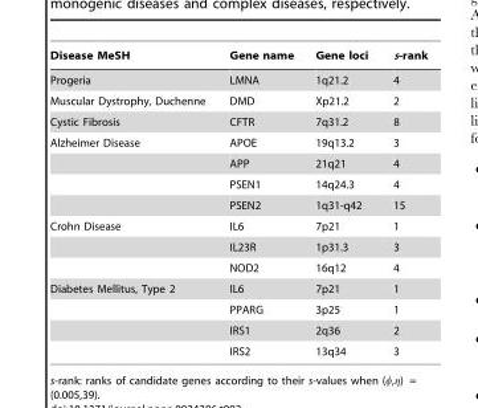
<table><thead><tr><td>Disease MeSH</td><td>Gene name</td><td>Gene loci</td><td>s-rank</td></tr></thead><tbody><tr><td>Progeria</td><td>LMNA</td><td>1q21.2</td><td>4</td></tr><tr><td>Muscular Dystrophy, Duchenne</td><td>DMD</td><td>Xp21.2</td><td>2</td></tr><tr><td>Cystic Fibrosis</td><td>CFTR</td><td>7q31.2</td><td>8</td></tr><tr><td rowspan="4">Alzheimer Disease</td><td>APOE</td><td>19q13.2</td><td>3</td></tr><tr><td>APP</td><td>21q21</td><td>4</td></tr><tr><td>PSEN1</td><td>14q24.3</td><td>4</td></tr><tr><td>PSEN2</td><td>1q31-q42</td><td>15</td></tr><tr><td rowspan="3">Crohn Disease</td><td>IL6</td><td>7p21</td><td>1</td></tr><tr><td>IL23R</td><td>1p31.3</td><td>3</td></tr><tr><td>NOD2</td><td>16q12</td><td>4</td></tr><tr><td rowspan="4">Diabetes Mellitus, Type 2</td><td>IL6</td><td>7p21</td><td>1</td></tr><tr><td>PPARG</td><td>3p25</td><td>1</td></tr><tr><td>IRS1</td><td>2q36</td><td>2</td></tr><tr><td>IRS2</td><td>13q34</td><td>3</td></tr></tbody></table>